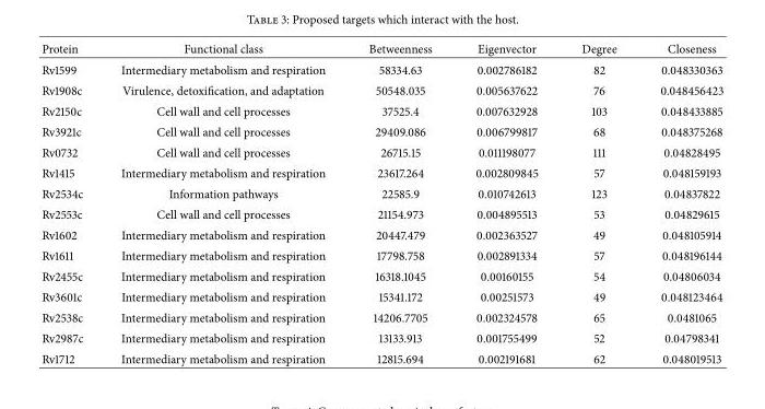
<table><thead><tr><td>Protein</td><td>Functional class</td><td>Betweenness</td><td>Eigenvector</td><td>Degree</td><td>Closeness</td></tr></thead><tbody><tr><td>Rv1599</td><td>Intermediary metabolism and respiration</td><td>58334.63</td><td>0.002786182</td><td>82</td><td>0.048330363</td></tr><tr><td>Rv1908c</td><td>Virulence, detoxification, and adaptation</td><td>50548.035</td><td>0.005637622</td><td>76</td><td>0.048456423</td></tr><tr><td>Rv2150c</td><td>Cell wall and cell processes</td><td>37525.4</td><td>0.007632928</td><td>103</td><td>0.048433885</td></tr><tr><td>Rv3921c</td><td>Cell wall and cell processes</td><td>29409.086</td><td>0.006799817</td><td>68</td><td>0.048375268</td></tr><tr><td>Rv0732</td><td>Cell wall and cell processes</td><td>26715.15</td><td>0.011198077</td><td>111</td><td>0.04828495</td></tr><tr><td>Rv1415</td><td>Intermediary metabolism and respiration</td><td>23617.264</td><td>0.002809845</td><td>57</td><td>0.048159193</td></tr><tr><td>Rv2534c</td><td>Information pathways</td><td>22585.9</td><td>0.010742613</td><td>123</td><td>0.04837822</td></tr><tr><td>Rv2553c</td><td>Cell wall and cell processes</td><td>21154.973</td><td>0.004895513</td><td>53</td><td>0.04829615</td></tr><tr><td>Rv1602</td><td>Intermediary metabolism and respiration</td><td>20447.479</td><td>0.002363527</td><td>49</td><td>0.048105914</td></tr><tr><td>Rv1611</td><td>Intermediary metabolism and respiration</td><td>17798.758</td><td>0.002891334</td><td>57</td><td>0.048196144</td></tr><tr><td>Rv2455c</td><td>Intermediary metabolism and respiration</td><td>16318.1045</td><td>0.00160155</td><td>54</td><td>0.04806034</td></tr><tr><td>Rv3601c</td><td>Intermediary metabolism and respiration</td><td>15341.172</td><td>0.00251573</td><td>49</td><td>0.048123464</td></tr><tr><td>Rv2538c</td><td>Intermediary metabolism and respiration</td><td>14206.7705</td><td>0.002324578</td><td>65</td><td>0.0481065</td></tr><tr><td>Rv2987c</td><td>Intermediary metabolism and respiration</td><td>13133.913</td><td>0.001755499</td><td>52</td><td>0.04798341</td></tr><tr><td>Rv1712</td><td>Intermediary metabolism and respiration</td><td>12815.694</td><td>0.002191681</td><td>62</td><td>0.048019513</td></tr></tbody></table>